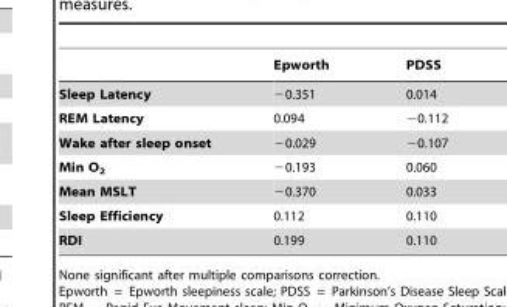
<table><thead><tr><td></td><td>Epworth</td><td>PDSS</td></tr></thead><tbody><tr><td>Sleep Latency</td><td>−0.351</td><td>0.014</td></tr><tr><td>REM Latency</td><td>0.094</td><td>−0.112</td></tr><tr><td>Wake after sleep onset</td><td>−0.029</td><td>−0.107</td></tr><tr><td>Min O<sub>2</sub></td><td>−0.193</td><td>0.060</td></tr><tr><td>Mean MSLT</td><td>−0.370</td><td>0.033</td></tr><tr><td>Sleep Efficiency</td><td>0.112</td><td>0.110</td></tr><tr><td>RDI</td><td>0.199</td><td>0.110</td></tr></tbody></table>